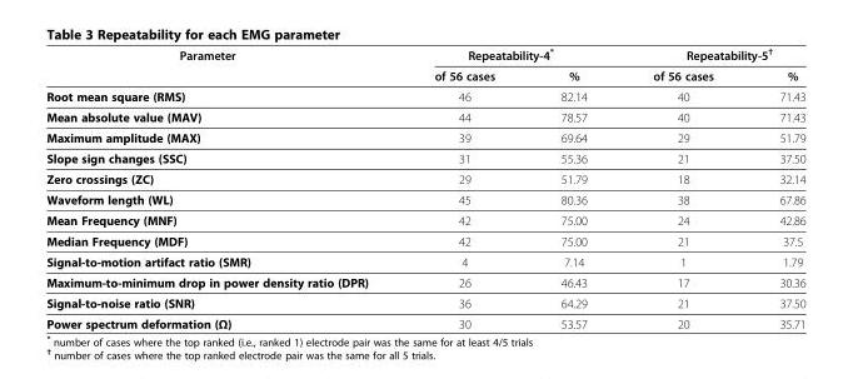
<table><thead><tr><td rowspan="2">Parameter</td><td colspan="2">Repeatability-4*</td><td colspan="2">Repeatability-5<sup>†</sup></td></tr><tr><td>of 56 cases</td><td>%</td><td>of 56 cases</td><td>%</td></tr></thead><tbody><tr><td>Root mean square (RMS)</td><td>46</td><td>82.14</td><td>40</td><td>71.43</td></tr><tr><td>Mean absolute value (MAV)</td><td>44</td><td>78.57</td><td>40</td><td>71.43</td></tr><tr><td>Maximum amplitude (MAX)</td><td>39</td><td>69.64</td><td>29</td><td>51.79</td></tr><tr><td>Slope sign changes (SSC)</td><td>31</td><td>55.36</td><td>21</td><td>37.50</td></tr><tr><td>Zero crossings (ZC)</td><td>29</td><td>51.79</td><td>18</td><td>32.14</td></tr><tr><td>Waveform length (WL)</td><td>45</td><td>80.36</td><td>38</td><td>67.86</td></tr><tr><td>Mean Frequency (MNF)</td><td>42</td><td>75.00</td><td>24</td><td>42.86</td></tr><tr><td>Median Frequency (MDF)</td><td>42</td><td>75.00</td><td>21</td><td>37.5</td></tr><tr><td>Signal-to-motion artifact ratio (SMR)</td><td>4</td><td>7.14</td><td>1</td><td>1.79</td></tr><tr><td>Maximum-to-minimum drop in power density ratio (DPR)</td><td>26</td><td>46.43</td><td>17</td><td>30.36</td></tr><tr><td>Signal-to-noise ratio (SNR)</td><td>36</td><td>64.29</td><td>21</td><td>37.50</td></tr><tr><td>Power spectrum deformation (Ω)</td><td>30</td><td>53.57</td><td>20</td><td>35.71</td></tr></tbody></table>